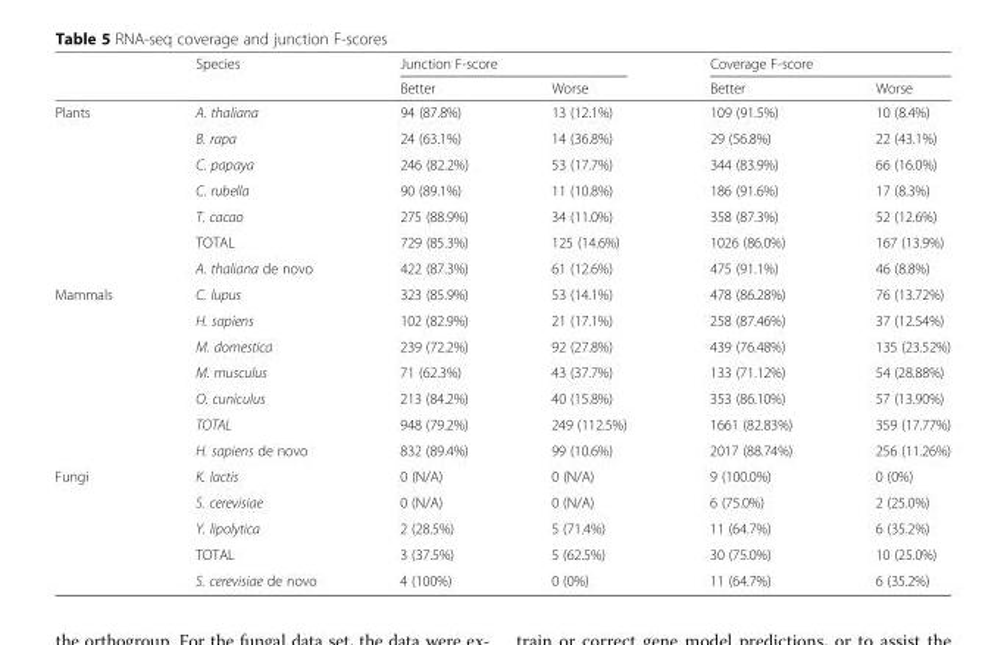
<table><thead><tr><td rowspan="2"></td><td rowspan="2">Species</td><td colspan="2">Junction F-score</td><td colspan="2">Coverage F-score</td></tr><tr><td>Better</td><td>Worse</td><td>Better</td><td>Worse</td></tr></thead><tbody><tr><td rowspan="7">Plants</td><td>A. thaliana</td><td>94 (87.8%)</td><td>13 (12.1%)</td><td>109 (91.5%)</td><td>10 (8.4%)</td></tr><tr><td>B. rapa</td><td>24 (63.1%)</td><td>14 (36.8%)</td><td>29 (56.8%)</td><td>22 (43.1%)</td></tr><tr><td>C. papaya</td><td>246 (82.2%)</td><td>53 (17.7%)</td><td>344 (83.9%)</td><td>66 (16.0%)</td></tr><tr><td>C. rubella</td><td>90 (89.1%)</td><td>11 (10.8%)</td><td>186 (91.6%)</td><td>17 (8.3%)</td></tr><tr><td>T. cacao</td><td>275 (88.9%)</td><td>34 (11.0%)</td><td>358 (87.3%)</td><td>52 (12.6%)</td></tr><tr><td>TOTAL</td><td>729 (85.3%)</td><td>125 (14.6%)</td><td>1026 (86.0%)</td><td>167 (13.9%)</td></tr><tr><td>A. thaliana de novo</td><td>422 (87.3%)</td><td>61 (12.6%)</td><td>475 (91.1%)</td><td>46 (8.8%)</td></tr><tr><td rowspan="7">Mammals</td><td>C. lupus</td><td>323 (85.9%)</td><td>53 (14.1%)</td><td>478 (86.28%)</td><td>76 (13.72%)</td></tr><tr><td>H. sapiens</td><td>102 (82.9%)</td><td>21 (17.1%)</td><td>258 (87.46%)</td><td>37 (12.54%)</td></tr><tr><td>M. domestica</td><td>239 (72.2%)</td><td>92 (27.8%)</td><td>439 (76.48%)</td><td>135 (23.52%)</td></tr><tr><td>M. musculus</td><td>71 (62.3%)</td><td>43 (37.7%)</td><td>133 (71.12%)</td><td>54 (28.88%)</td></tr><tr><td>O. cuniculus</td><td>213 (84.2%)</td><td>40 (15.8%)</td><td>353 (86.10%)</td><td>57 (13.90%)</td></tr><tr><td>TOTAL</td><td>948 (79.2%)</td><td>249 (112.5%)</td><td>1661 (82.83%)</td><td>359 (17.77%)</td></tr><tr><td>H. sapiens de novo</td><td>832 (89.4%)</td><td>99 (10.6%)</td><td>2017 (88.74%)</td><td>256 (11.26%)</td></tr><tr><td rowspan="5">Fungi</td><td>K. lactis</td><td>0 (N/A)</td><td>0 (N/A)</td><td>9 (100.0%)</td><td>0 (0%)</td></tr><tr><td>S. cerevisiae</td><td>0 (N/A)</td><td>0 (N/A)</td><td>6 (75.0%)</td><td>2 (25.0%)</td></tr><tr><td>Y. lipolytica</td><td>2 (28.5%)</td><td>5 (71.4%)</td><td>11 (64.7%)</td><td>6 (35.2%)</td></tr><tr><td>TOTAL</td><td>3 (37.5%)</td><td>5 (62.5%)</td><td>30 (75.0%)</td><td>10 (25.0%)</td></tr><tr><td>S. cerevisiae de novo</td><td>4 (100%)</td><td>0 (0%)</td><td>11 (64.7%)</td><td>6 (35.2%)</td></tr></tbody></table>